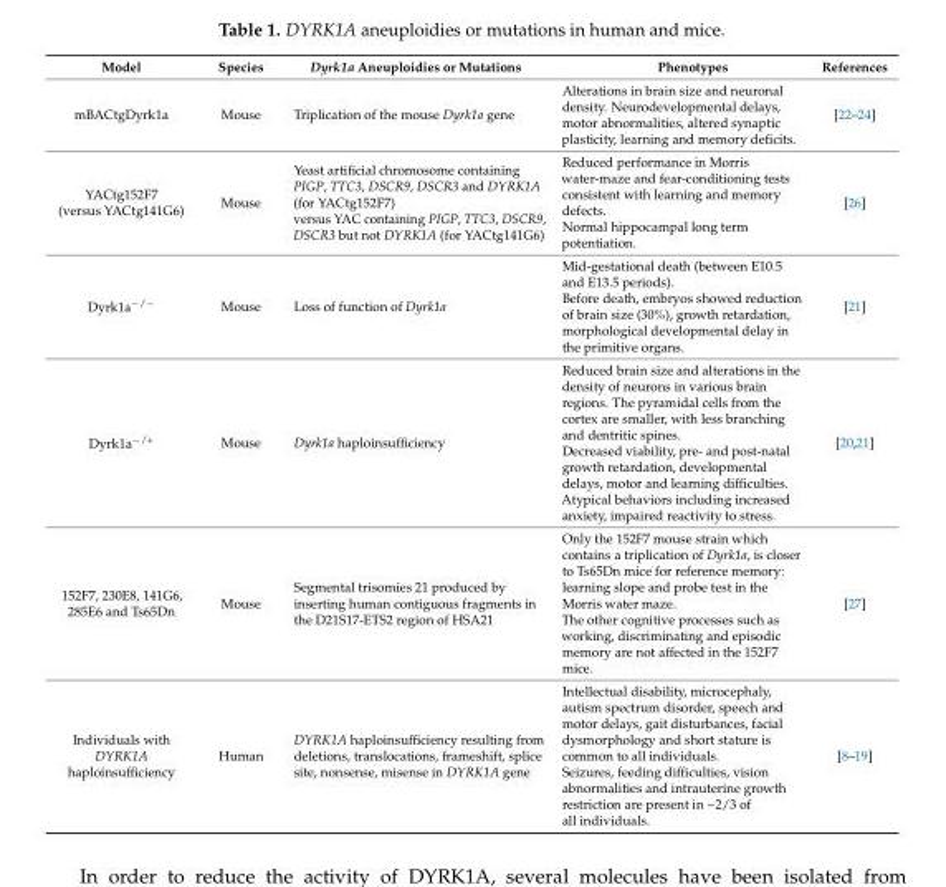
<table><thead><tr><td>Model</td><td>Species</td><td>Dyrk1a Aneuploidies or Mutations</td><td>Phenotypes</td><td>References</td></tr></thead><tbody><tr><td>mBACtgDyrk1a</td><td>Mouse</td><td>Triplication of the mouse Dyrk1a gene</td><td>Alterations in brain size and neuronal density. Neurodevelopmental delays, motor abnormalities, altered synaptic plasticity, learning and memory deficits.</td><td>[22–24]</td></tr><tr><td>YACtg152F7 (versus YACtg141G6)</td><td>Mouse</td><td>Yeast artificial chromosome containing PIGP, TTC3, DSCR9, DSCR3 and DYRK1A (for YACtg152F7) versus YAC containing PIGP, TTC3, DSCR9, DSCR3 but not DYRK1A (for YACtg141G6)</td><td>Reduced performance in Morris water-maze and fear-conditioning tests consistent with learning and memory defects. Normal hippocampal long term potentiation.</td><td>[26]</td></tr><tr><td>Dyrk1a<sup>−/−</sup></td><td>Mouse</td><td>Loss of function of Dyrk1a</td><td>Mid-gestational death (between E10.5 and E13.5 periods). Before death, embryos showed reduction of brain size (30%), growth retardation, morphological developmental delay in the primitive organs.</td><td>[21]</td></tr><tr><td>Dyrk1a<sup>−/+</sup></td><td>Mouse</td><td>Dyrk1a haploinsufficiency</td><td>Reduced brain size and alterations in the density of neurons in various brain regions. The pyramidal cells from the cortex are smaller, with less branching and dentritic spines. Decreased viability, pre- and post-natal growth retardation, developmental delays, motor and learning difficulties. Atypical behaviors including increased anxiety, impaired reactivity to stress.</td><td>[20,21]</td></tr><tr><td>152F7, 230E8, 141G6, 285E6 and Ts65Dn</td><td>Mouse</td><td>Segmental trisomies 21 produced by inserting human contiguous fragments in the D21S17-ETS2 region of HSA21</td><td>Only the 152F7 mouse strain which contains a triplication of Dyrk1a, is closer to Ts65Dn mice for reference memory: learning slope and probe test in the Morris water maze. The other cognitive processes such as working, discriminating and episodic memory are not affected in the 152F7 mice.</td><td>[27]</td></tr><tr><td>Individuals with DYRK1A haploinsufficiency</td><td>Human</td><td>DYRK1A haploinsufficiency resulting from deletions, translocations, frameshift, splice site, nonsense, misense in DYRK1A gene</td><td>Intellectual disability, microcephaly, autism spectrum disorder, speech and motor delays, gait disturbances, facial dysmorphology and short stature is common to all individuals. Seizures, feeding difficulties, vision abnormalities and intrauterine growth restriction are present in ~2/3 of all individuals.</td><td>[8–19]</td></tr></tbody></table>